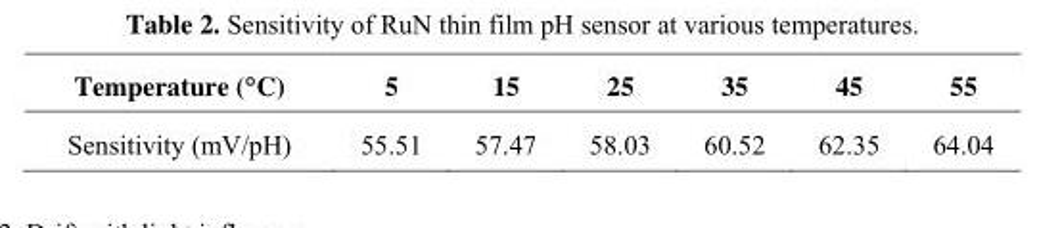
<table><thead><tr><td>Temperature (°C)</td><td>5</td><td>15</td><td>25</td><td>35</td><td>45</td><td>55</td></tr></thead><tbody><tr><td>Sensitivity (mV/pH)</td><td>55.51</td><td>57.47</td><td>58.03</td><td>60.52</td><td>62.35</td><td>64.04</td></tr></tbody></table>